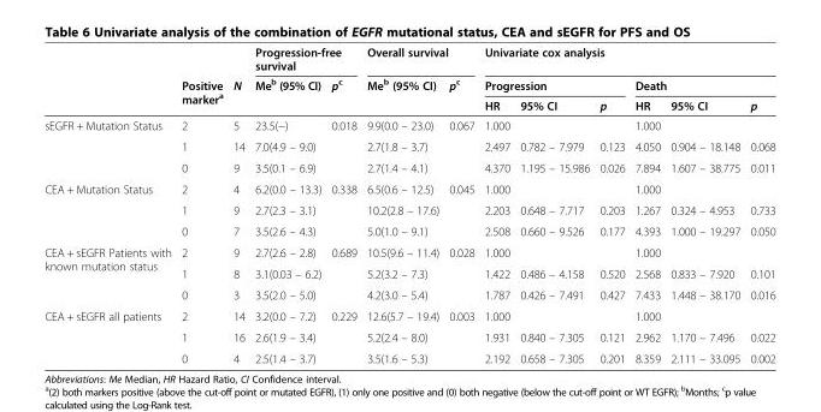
<table><thead><tr><td rowspan="3"></td><td rowspan="3">Positive marker<sup>a</sup></td><td rowspan="3">N</td><td colspan="2">Progression-free survival</td><td colspan="2">Overall survival</td><td colspan="6">Univariate cox analysis</td></tr><tr><td rowspan="2">Me<sup>b</sup> (95% CI)</td><td rowspan="2">p<sup>c</sup></td><td rowspan="2">Me<sup>b</sup> (95% CI)</td><td rowspan="2">p<sup>c</sup></td><td colspan="3">Progression</td><td colspan="3">Death</td></tr><tr><td>HR</td><td>95% CI</td><td>p</td><td>HR</td><td>95% CI</td><td>p</td></tr></thead><tbody><tr><td rowspan="3">sEGFR + Mutation Status</td><td>2</td><td>5</td><td>23.5(−)</td><td rowspan="3">0.018</td><td>9.9(0.0 – 23.0)</td><td rowspan="3">0.067</td><td>1.000</td><td></td><td></td><td>1.000</td><td></td><td></td></tr><tr><td>1</td><td>14</td><td>7.0(4.9 – 9.0)</td><td>2.7(1.8 – 3.7)</td><td>2.497</td><td>0.782 – 7.979</td><td>0.123</td><td>4.050</td><td>0.904 – 18.148</td><td>0.068</td></tr><tr><td>0</td><td>9</td><td>3.5(0.1 – 6.9)</td><td>2.7(1.4 – 4.1)</td><td>4.370</td><td>1.195 – 15.986</td><td>0.026</td><td>7.894</td><td>1.607 – 38.775</td><td>0.011</td></tr><tr><td rowspan="3">CEA + Mutation Status</td><td>2</td><td>4</td><td>6.2(0.0 – 13.3)</td><td rowspan="3">0.338</td><td>6.5(0.6 – 12.5)</td><td rowspan="3">0.045</td><td>1.000</td><td></td><td></td><td>1.000</td><td></td><td></td></tr><tr><td>1</td><td>9</td><td>2.7(2.3 – 3.1)</td><td>10.2(2.8 – 17.6)</td><td>2.203</td><td>0.648 – 7.717</td><td>0.203</td><td>1.267</td><td>0.324 – 4.953</td><td>0.733</td></tr><tr><td>0</td><td>7</td><td>3.5(2.6 – 4.3)</td><td>5.0(1.0 – 9.1)</td><td>2.508</td><td>0.660 – 9.526</td><td>0.177</td><td>4.393</td><td>1.000 – 19.297</td><td>0.050</td></tr><tr><td rowspan="3">CEA + sEGFR Patients with known mutation status</td><td>2</td><td>9</td><td>2.7(2.6 – 2.8)</td><td rowspan="3">0.689</td><td>10.5(9.6 – 11.4)</td><td rowspan="3">0.028</td><td>1.000</td><td></td><td></td><td>1.000</td><td></td><td></td></tr><tr><td>1</td><td>8</td><td>3.1(0.03 – 6.2)</td><td>5.2(3.2 – 7.3)</td><td>1.422</td><td>0.486 – 4.158</td><td>0.520</td><td>2.568</td><td>0.833 – 7.920</td><td>0.101</td></tr><tr><td>0</td><td>3</td><td>3.5(2.0 – 5.0)</td><td>4.2(3.0 – 5.4)</td><td>1.787</td><td>0.426 – 7.491</td><td>0.427</td><td>7.433</td><td>1.448 – 38.170</td><td>0.016</td></tr><tr><td rowspan="3">CEA + sEGFR all patients</td><td>2</td><td>14</td><td>3.2(0.0 – 7.2)</td><td rowspan="3">0.229</td><td>12.6(5.7 – 19.4)</td><td rowspan="3">0.003</td><td>1.000</td><td></td><td></td><td>1.000</td><td></td><td></td></tr><tr><td>1</td><td>16</td><td>2.6(1.9 – 3.4)</td><td>5.2(2.4 – 8.0)</td><td>1.931</td><td>0.840 – 7.305</td><td>0.121</td><td>2.962</td><td>1.170 – 7.496</td><td>0.022</td></tr><tr><td>0</td><td>4</td><td>2.5(1.4 – 3.7)</td><td>3.5(1.6 – 5.3)</td><td>2.192</td><td>0.658 – 7.305</td><td>0.201</td><td>8.359</td><td>2.111 – 33.095</td><td>0.002</td></tr></tbody></table>